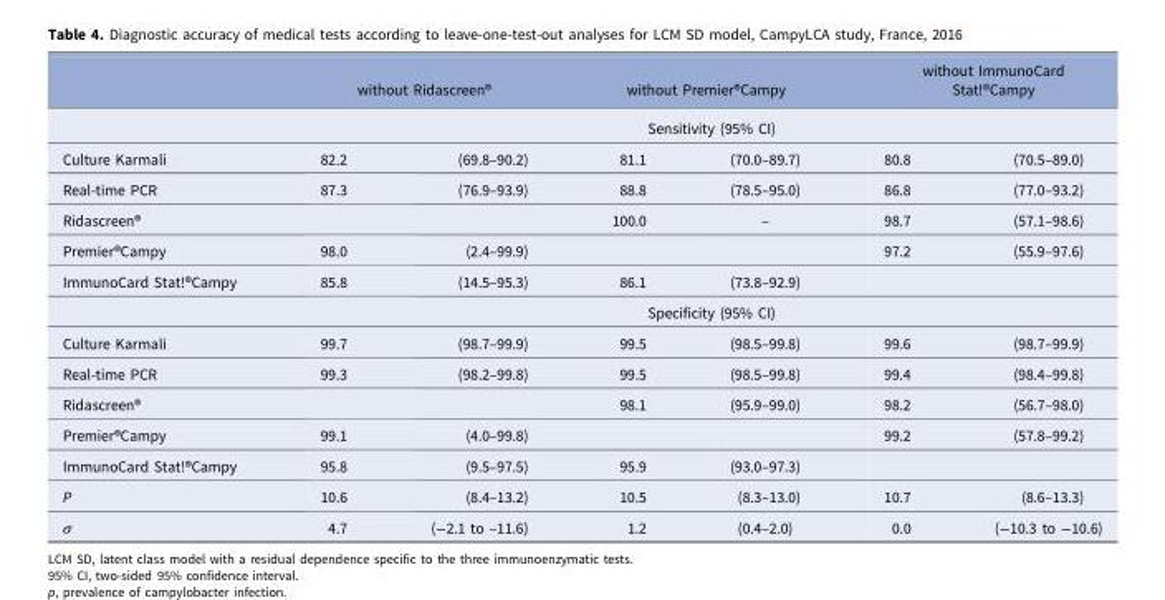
<table><thead><tr><td rowspan="3">Culture Karmali</td><td colspan="2">without Ridascreen<sup>®</sup></td><td colspan="2">without Premier<sup>®</sup>Campy</td><td colspan="2">without ImmunoCard Stat!<sup>®</sup>Campy</td></tr><tr><td colspan="6">Sensitivity (95% CI)</td></tr><tr><td>82.2</td><td>(69.8–90.2)</td><td>81.1</td><td>(70.0–89.7)</td><td>80.8</td><td>(70.5–89.0)</td></tr></thead><tbody><tr><td>Real-time PCR</td><td>87.3</td><td>(76.9–93.9)</td><td>88.8</td><td>(78.5–95.0)</td><td>86.8</td><td>(77.0–93.2)</td></tr><tr><td>Ridascreen<sup>®</sup></td><td></td><td></td><td>100.0</td><td>–</td><td>98.7</td><td>(57.1–98.6)</td></tr><tr><td>Premier<sup>®</sup>Campy</td><td>98.0</td><td>(2.4–99.9)</td><td></td><td></td><td>97.2</td><td>(55.9–97.6)</td></tr><tr><td rowspan="2">ImmunoCard Stat!<sup>®</sup>Campy</td><td>85.8</td><td>(14.5–95.3)</td><td>86.1</td><td>(73.8–92.9)</td><td></td><td></td></tr><tr><td colspan="6">Specificity (95% CI)</td></tr><tr><td>Culture Karmali</td><td>99.7</td><td>(98.7–99.9)</td><td>99.5</td><td>(98.5–99.8)</td><td>99.6</td><td>(98.7–99.9)</td></tr><tr><td>Real-time PCR</td><td>99.3</td><td>(98.2–99.8)</td><td>99.5</td><td>(98.5–99.8)</td><td>99.4</td><td>(98.4–99.8)</td></tr><tr><td>Ridascreen<sup>®</sup></td><td></td><td></td><td>98.1</td><td>(95.9–99.0)</td><td>98.2</td><td>(56.7–98.0)</td></tr><tr><td>Premier<sup>®</sup>Campy</td><td>99.1</td><td>(4.0–99.8)</td><td></td><td></td><td>99.2</td><td>(57.8–99.2)</td></tr><tr><td>ImmunoCard Stat!<sup>®</sup>Campy</td><td>95.8</td><td>(9.5–97.5)</td><td>95.9</td><td>(93.0–97.3)</td><td></td><td></td></tr><tr><td>P</td><td>10.6</td><td>(8.4–13.2)</td><td>10.5</td><td>(8.3–13.0)</td><td>10.7</td><td>(8.6–13.3)</td></tr><tr><td>σ</td><td>4.7</td><td>(−2.1 to –11.6)</td><td>1.2</td><td>(0.4–2.0)</td><td>0.0</td><td>(−10.3 to −10.6)</td></tr></tbody></table>